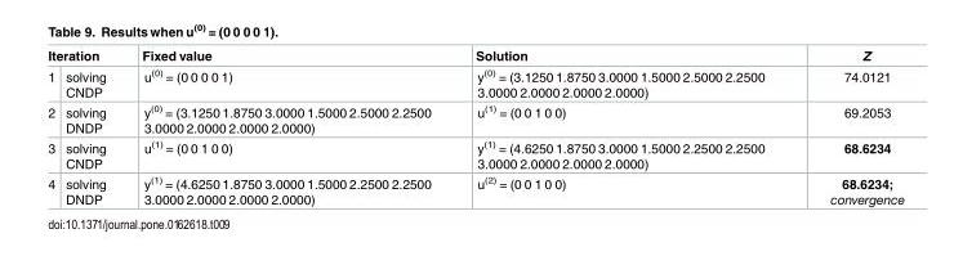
<table><thead><tr><td colspan="2">Iteration</td><td rowspan="2">Fixed value u<sup>(0)</sup> = (0 0 0 0 1)</td><td rowspan="2">Solution y<sup>(0)</sup> = (3.1250 1.8750 3.0000 1.5000 2.5000 2.2500 3.0000 2.0000 2.0000 2.0000)</td><td rowspan="2">Z 74.0121</td></tr><tr><td>1</td><td>solving CNDP</td></tr></thead><tbody><tr><td>2</td><td>solving DNDP</td><td>y<sup>(0)</sup> = (3.1250 1.8750 3.0000 1.5000 2.5000 2.2500 3.0000 2.0000 2.0000 2.0000)</td><td>u<sup>(1)</sup> = (0 0 1 0 0)</td><td>69.2053</td></tr><tr><td>3</td><td>solving CNDP</td><td>u<sup>(1)</sup> = (0 0 1 0 0)</td><td>y<sup>(1)</sup> = (4.6250 1.8750 3.0000 1.5000 2.2500 2.2500 3.0000 2.0000 2.0000 2.0000)</td><td>68.6234</td></tr><tr><td>4</td><td>solving DNDP</td><td>y<sup>(1)</sup> = (4.6250 1.8750 3.0000 1.5000 2.2500 2.2500 3.0000 2.0000 2.0000 2.0000)</td><td>u<sup>(2)</sup> = (0 0 1 0 0)</td><td>68.6234; convergence</td></tr></tbody></table>